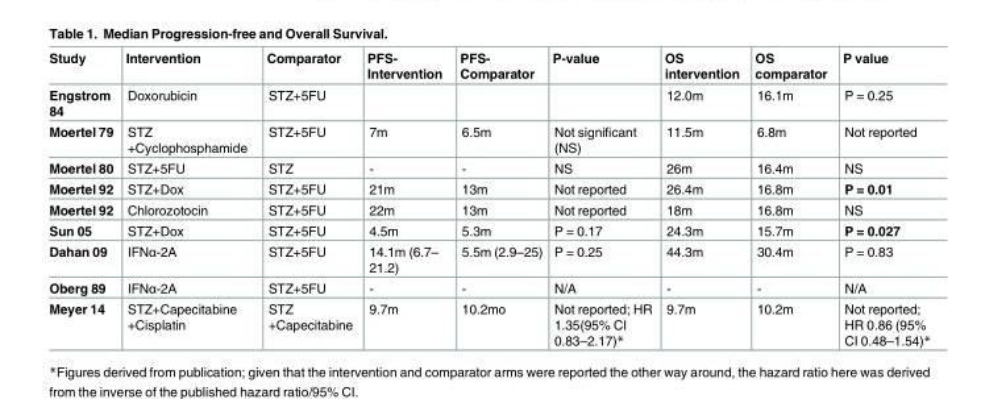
<table><thead><tr><td>Study</td><td>Intervention</td><td>Comparator</td><td>PFS- Intervention</td><td>PFS- Comparator</td><td>P-value</td><td>OS intervention</td><td>OS comparator</td><td>P value</td></tr></thead><tbody><tr><td>Engstrom 84</td><td>Doxorubicin</td><td>STZ+5FU</td><td></td><td></td><td></td><td>12.0m</td><td>16.1m</td><td>P = 0.25</td></tr><tr><td>Moertel 79</td><td>STZ +Cyclophosphamide</td><td>STZ+5FU</td><td>7m</td><td>6.5m</td><td>Not significant (NS)</td><td>11.5m</td><td>6.8m</td><td>Not reported</td></tr><tr><td>Moertel 80</td><td>STZ+5FU</td><td>STZ</td><td>-</td><td>-</td><td>NS</td><td>26m</td><td>16.4m</td><td>NS</td></tr><tr><td>Moertel 92</td><td>STZ+Dox</td><td>STZ+5FU</td><td>21m</td><td>13m</td><td>Not reported</td><td>26.4m</td><td>16.8m</td><td>P = 0.01</td></tr><tr><td>Moertel 92</td><td>Chlorozotocin</td><td>STZ+5FU</td><td>22m</td><td>13m</td><td>Not reported</td><td>18m</td><td>16.8m</td><td>NS</td></tr><tr><td>Sun 05</td><td>STZ+Dox</td><td>STZ+5FU</td><td>4.5m</td><td>5.3m</td><td>P = 0.17</td><td>24.3m</td><td>15.7m</td><td>P = 0.027</td></tr><tr><td>Dahan 09</td><td>IFNα-2A</td><td>STZ+5FU</td><td>14.1m (6.7– 21.2)</td><td>5.5m (2.9–25)</td><td>P = 0.25</td><td>44.3m</td><td>30.4m</td><td>P = 0.83</td></tr><tr><td>Oberg 89</td><td>IFNα-2A</td><td>STZ+5FU</td><td>-</td><td>-</td><td>N/A</td><td>-</td><td>-</td><td>N/A</td></tr><tr><td>Meyer 14</td><td>STZ+Capecitabine +Cisplatin</td><td>STZ +Capecitabine</td><td>9.7m</td><td>10.2mo</td><td>Not reported; HR 1.35(95% CI 0.83–2.17)*</td><td>9.7m</td><td>10.2m</td><td>Not reported; HR 0.86 (95% CI 0.48–1.54)*</td></tr></tbody></table>